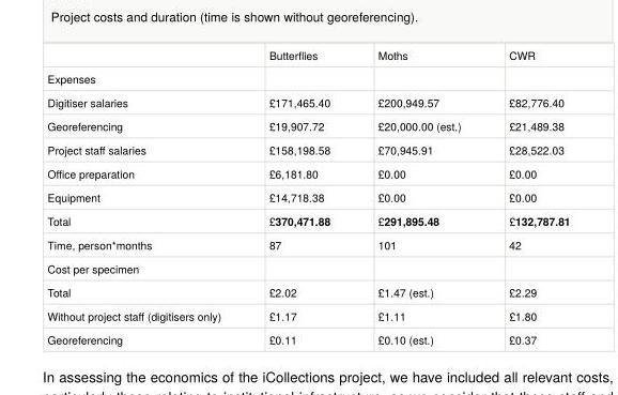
<table><thead><tr><td></td><td>Butterflies</td><td>Moths</td><td>CWR</td></tr></thead><tbody><tr><td colspan="4">Expenses</td></tr><tr><td>Digitiser salaries</td><td>£171,465.40</td><td>£200,949.57</td><td>£82,776.40</td></tr><tr><td>Georeferencing</td><td>£19,907.72</td><td>£20,000.00 (est.)</td><td>£21,489.38</td></tr><tr><td>Project staff salaries</td><td>£158,198.58</td><td>£70,945.91</td><td>£28,522.03</td></tr><tr><td>Office preparation</td><td>£6,181.80</td><td>£0.00</td><td>£0.00</td></tr><tr><td>Equipment</td><td>£14,718.38</td><td>£0.00</td><td>£0.00</td></tr><tr><td>Total</td><td>£370,471.88</td><td>£291,895.48</td><td>£132,787.81</td></tr><tr><td>Time, person*months</td><td>87</td><td>101</td><td>42</td></tr><tr><td colspan="4">Cost per specimen</td></tr><tr><td>Total</td><td>£2.02</td><td>£1.47 (est.)</td><td>£2.29</td></tr><tr><td>Without project staff (digitisers only)</td><td>£1.17</td><td>£1.11</td><td>£1.80</td></tr><tr><td>Georeferencing</td><td>£0.11</td><td>£0.10 (est.)</td><td>£0.37</td></tr></tbody></table>